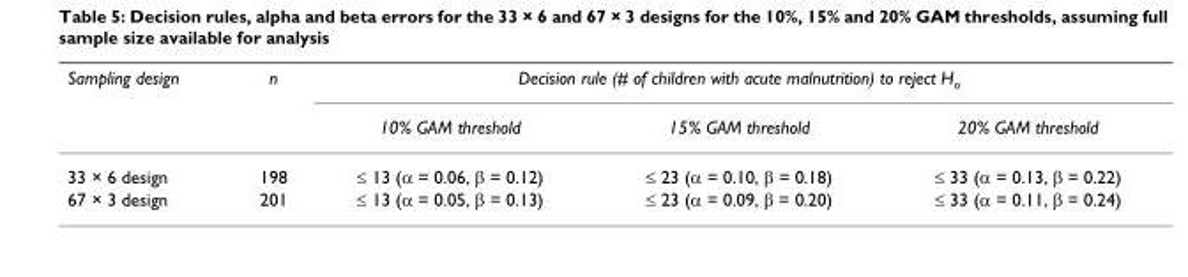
<table><thead><tr><td rowspan="2">Sampling design</td><td rowspan="2">n</td><td colspan="3">Decision rule (# of children with acute malnutrition) to reject H<sub>o</sub></td></tr><tr><td>10% GAM threshold</td><td>15% GAM threshold</td><td>20% GAM threshold</td></tr></thead><tbody><tr><td>33 × 6 design</td><td>198</td><td>≤ 13 (α = 0.06, β = 0.12)</td><td>≤ 23 (α = 0.10, β = 0.18)</td><td>≤ 33 (α = 0.13, β = 0.22)</td></tr><tr><td>67 × 3 design</td><td>201</td><td>≤ 13 (α = 0.05, β = 0.13)</td><td>≤ 23 (α = 0.09, β = 0.20)</td><td>≤ 33 (α = 0.11, β = 0.24)</td></tr></tbody></table>